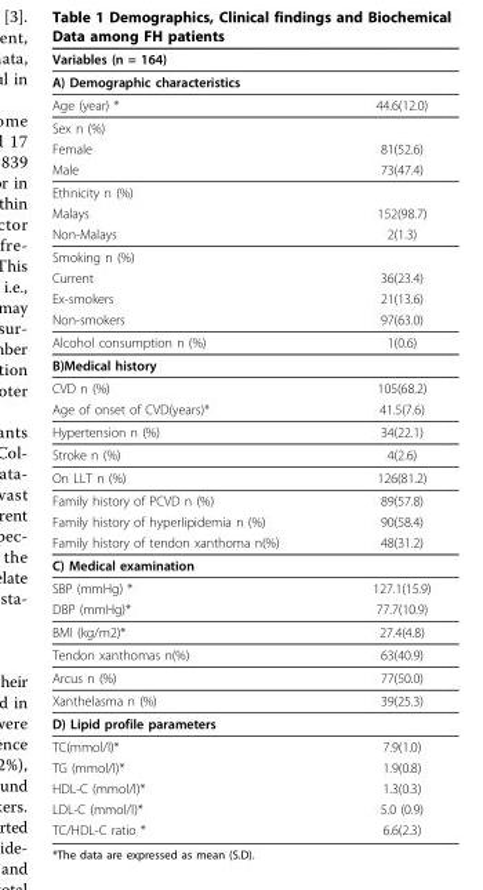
<table><thead><tr><td>Variables (n = 164)</td><td></td></tr></thead><tbody><tr><td colspan="2">A) Demographic characteristics</td></tr><tr><td>Age (year) *</td><td>44.6(12.0)</td></tr><tr><td colspan="2">Sex n (%)</td></tr><tr><td>Female</td><td>81(52.6)</td></tr><tr><td>Male</td><td>73(47.4)</td></tr><tr><td colspan="2">Ethnicity n (%)</td></tr><tr><td>Malays</td><td>152(98.7)</td></tr><tr><td>Non-Malays</td><td>2(1.3)</td></tr><tr><td colspan="2">Smoking n (%)</td></tr><tr><td>Current</td><td>36(23.4)</td></tr><tr><td>Ex-smokers</td><td>21(13.6)</td></tr><tr><td>Non-smokers</td><td>97(63.0)</td></tr><tr><td>Alcohol consumption n (%)</td><td>1(0.6)</td></tr><tr><td colspan="2">B)Medical history</td></tr><tr><td>CVD n (%)</td><td>105(68.2)</td></tr><tr><td>Age of onset of CVD(years)*</td><td>41.5(7.6)</td></tr><tr><td>Hypertension n (%)</td><td>34(22.1)</td></tr><tr><td>Stroke n (%)</td><td>4(2.6)</td></tr><tr><td>On LLT n (%)</td><td>126(81.2)</td></tr><tr><td>Family history of PCVD n (%)</td><td>89(57.8)</td></tr><tr><td>Family history of hyperlipidemia n (%)</td><td>90(58.4)</td></tr><tr><td>Family history of tendon xanthoma n(%)</td><td>48(31.2)</td></tr><tr><td colspan="2">C) Medical examination</td></tr><tr><td>SBP (mmHg) *</td><td>127.1(15.9)</td></tr><tr><td>DBP (mmHg)*</td><td>77.7(10.9)</td></tr><tr><td>BMI (kg/m2)*</td><td>27.4(4.8)</td></tr><tr><td>Tendon xanthomas n(%)</td><td>63(40.9)</td></tr><tr><td>Arcus n (%)</td><td>77(50.0)</td></tr><tr><td>Xanthelasma n (%)</td><td>39(25.3)</td></tr><tr><td colspan="2">D) Lipid profile parameters</td></tr><tr><td>TC(mmol/l)*</td><td>7.9(1.0)</td></tr><tr><td>TG (mmol/l)*</td><td>1.9(0.8)</td></tr><tr><td>HDL-C (mmol/l)*</td><td>1.3(0.3)</td></tr><tr><td>LDL-C (mmol/l)*</td><td>5.0 (0.9)</td></tr><tr><td>TC/HDL-C ratio *</td><td>6.6(2.3)</td></tr></tbody></table>